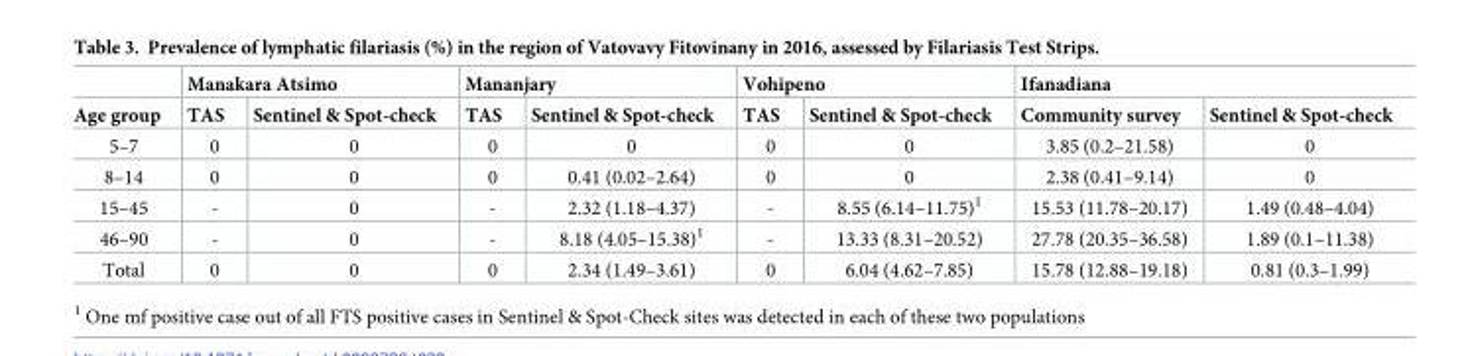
<table><thead><tr><td rowspan="2">Age group</td><td colspan="2">Manakara Atsimo</td><td colspan="2">Mananjary</td><td colspan="2">Vohipeno</td><td colspan="2">Ifanadiana</td></tr><tr><td>TAS</td><td>Sentinel &amp; Spot-check</td><td>TAS</td><td>Sentinel &amp; Spot-check</td><td>TAS</td><td>Sentinel &amp; Spot-check</td><td>Community survey</td><td>Sentinel &amp; Spot-check</td></tr></thead><tbody><tr><td>5–7</td><td>0</td><td>0</td><td>0</td><td>0</td><td>0</td><td>0</td><td>3.85 (0.2–21.58)</td><td>0</td></tr><tr><td>8–14</td><td>0</td><td>0</td><td>0</td><td>0.41 (0.02–2.64)</td><td>0</td><td>0</td><td>2.38 (0.41–9.14)</td><td>0</td></tr><tr><td>15–45</td><td>-</td><td>0</td><td>-</td><td>2.32 (1.18–4.37)</td><td>-</td><td>8.55 (6.14–11.75)<sup>1</sup></td><td>15.53 (11.78–20.17)</td><td>1.49 (0.48–4.04)</td></tr><tr><td>46–90</td><td>-</td><td>0</td><td>-</td><td>8.18 (4.05–15.38)<sup>1</sup></td><td>-</td><td>13.33 (8.31–20.52)</td><td>27.78 (20.35–36.58)</td><td>1.89 (0.1–11.38)</td></tr><tr><td>Total</td><td>0</td><td>0</td><td>0</td><td>2.34 (1.49–3.61)</td><td>0</td><td>6.04 (4.62–7.85)</td><td>15.78 (12.88–19.18)</td><td>0.81 (0.3–1.99)</td></tr></tbody></table>